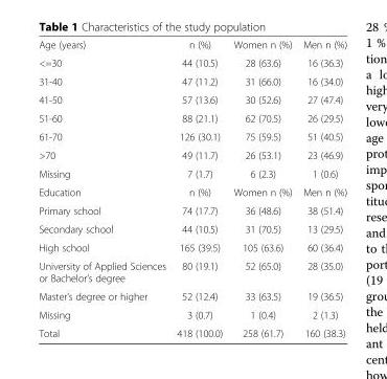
<table><tbody><tr><td>Age (years)</td><td>n (%)</td><td>Women n (%)</td><td>Men n (%)</td></tr><tr><td>&lt;=30</td><td>44 (10.5)</td><td>28 (63.6)</td><td>16 (36.3)</td></tr><tr><td>31-40</td><td>47 (11.2)</td><td>31 (66.0)</td><td>16 (34.0)</td></tr><tr><td>41-50</td><td>57 (13.6)</td><td>30 (52.6)</td><td>27 (47.4)</td></tr><tr><td>51-60</td><td>88 (21.1)</td><td>62 (70.5)</td><td>26 (29.5)</td></tr><tr><td>61-70</td><td>126 (30.1)</td><td>75 (59.5)</td><td>51 (40.5)</td></tr><tr><td>&gt;70</td><td>49 (11.7)</td><td>26 (53.1)</td><td>23 (46.9)</td></tr><tr><td>Missing</td><td>7 (1.7)</td><td>6 (2.3)</td><td>1 (0.6)</td></tr><tr><td>Education</td><td>n (%)</td><td>Women n (%)</td><td>Men n (%)</td></tr><tr><td>Primary school</td><td>74 (17.7)</td><td>36 (48.6)</td><td>38 (51.4)</td></tr><tr><td>Secondary school</td><td>44 (10.5)</td><td>31 (70.5)</td><td>13 (29.5)</td></tr><tr><td>High school</td><td>165 (39.5)</td><td>105 (63.6)</td><td>60 (36.4)</td></tr><tr><td>University of Applied Sciences or Bachelor’s degree</td><td>80 (19.1)</td><td>52 (65.0)</td><td>28 (35.0)</td></tr><tr><td>Master’s degree or higher</td><td>52 (12.4)</td><td>33 (63.5)</td><td>19 (36.5)</td></tr><tr><td>Missing</td><td>3 (0.7)</td><td>1 (0.4)</td><td>2 (1.3)</td></tr><tr><td>Total</td><td>418 (100.0)</td><td>258 (61.7)</td><td>160 (38.3)</td></tr></tbody></table>